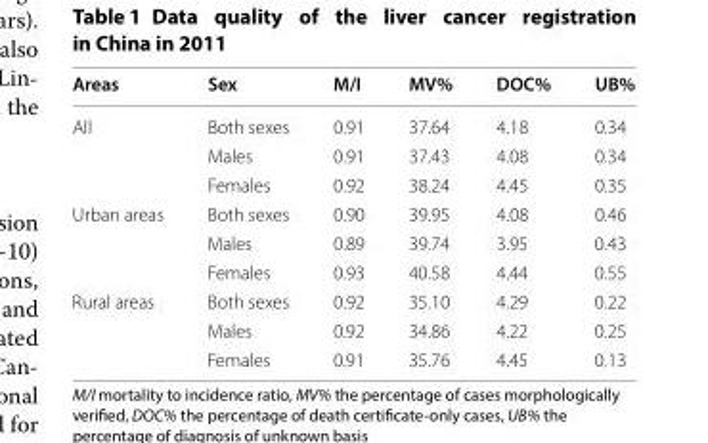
<table><thead><tr><td>Areas</td><td>Sex</td><td>M/I</td><td>MV%</td><td>DOC%</td><td>UB%</td></tr></thead><tbody><tr><td rowspan="3">All</td><td>Both sexes</td><td>0.91</td><td>37.64</td><td>4.18</td><td>0.34</td></tr><tr><td>Males</td><td>0.91</td><td>37.43</td><td>4.08</td><td>0.34</td></tr><tr><td>Females</td><td>0.92</td><td>38.24</td><td>4.45</td><td>0.35</td></tr><tr><td rowspan="3">Urban areas</td><td>Both sexes</td><td>0.90</td><td>39.95</td><td>4.08</td><td>0.46</td></tr><tr><td>Males</td><td>0.89</td><td>39.74</td><td>3.95</td><td>0.43</td></tr><tr><td>Females</td><td>0.93</td><td>40.58</td><td>4.44</td><td>0.55</td></tr><tr><td rowspan="3">Rural areas</td><td>Both sexes</td><td>0.92</td><td>35.10</td><td>4.29</td><td>0.22</td></tr><tr><td>Males</td><td>0.92</td><td>34.86</td><td>4.22</td><td>0.25</td></tr><tr><td>Females</td><td>0.91</td><td>35.76</td><td>4.45</td><td>0.13</td></tr></tbody></table>